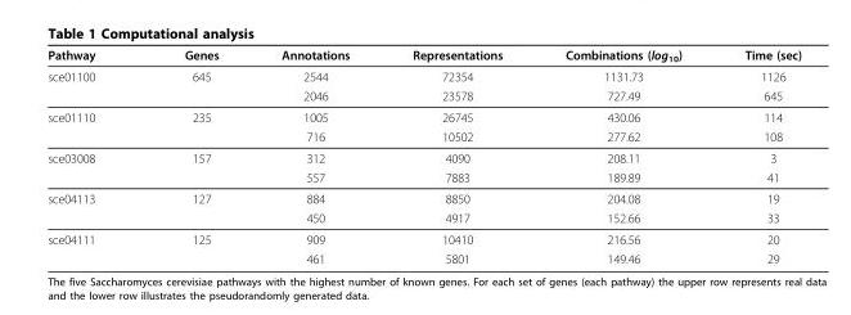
<table><thead><tr><td>Pathway</td><td>Genes</td><td>Annotations</td><td>Representations</td><td>Combinations (log<sub>10</sub>)</td><td>Time (sec)</td></tr></thead><tbody><tr><td rowspan="2">sce01100</td><td>645</td><td>2544</td><td>72354</td><td>1131.73</td><td>1126</td></tr><tr><td></td><td>2046</td><td>23578</td><td>727.49</td><td>645</td></tr><tr><td rowspan="2">sce01110</td><td>235</td><td>1005</td><td>26745</td><td>430.06</td><td>114</td></tr><tr><td></td><td>716</td><td>10502</td><td>277.62</td><td>108</td></tr><tr><td rowspan="2">sce03008</td><td>157</td><td>312</td><td>4090</td><td>208.11</td><td>3</td></tr><tr><td></td><td>557</td><td>7883</td><td>189.89</td><td>41</td></tr><tr><td rowspan="2">sce04113</td><td>127</td><td>884</td><td>8850</td><td>204.08</td><td>19</td></tr><tr><td></td><td>450</td><td>4917</td><td>152.66</td><td>33</td></tr><tr><td rowspan="2">sce04111</td><td>125</td><td>909</td><td>10410</td><td>216.56</td><td>20</td></tr><tr><td></td><td>461</td><td>5801</td><td>149.46</td><td>29</td></tr></tbody></table>